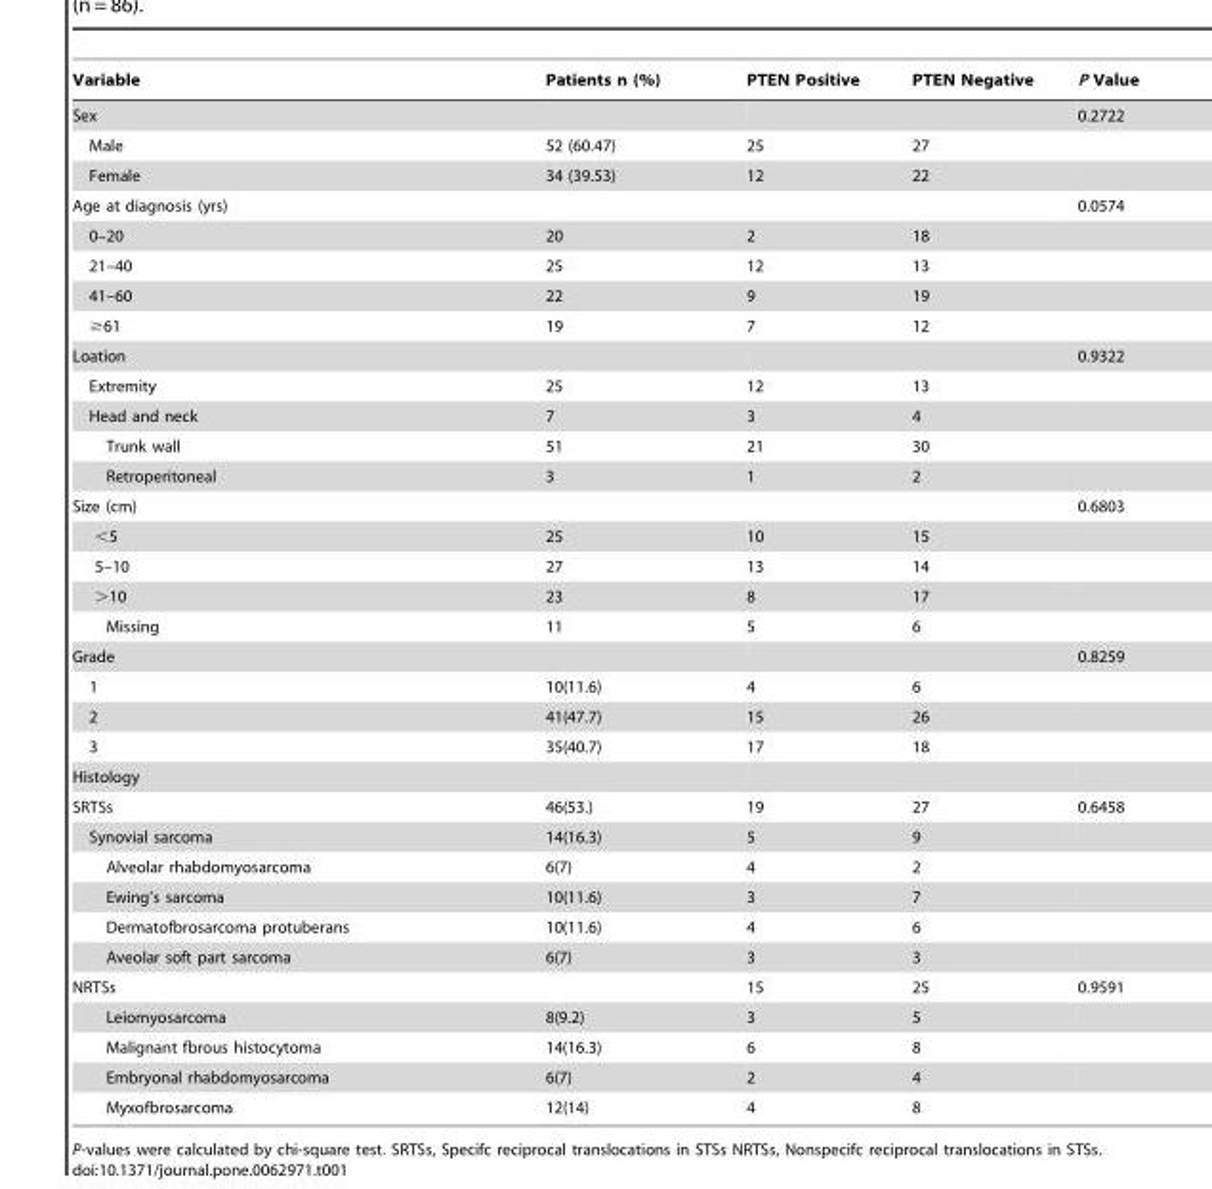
<table><thead><tr><td>Variable</td><td>Patients n (%)</td><td>PTEN Positive</td><td>PTEN Negative</td><td>P Value</td></tr></thead><tbody><tr><td>Sex</td><td></td><td></td><td></td><td>0.2722</td></tr><tr><td>Male</td><td>52 (60.47)</td><td>25</td><td>27</td><td></td></tr><tr><td>Female</td><td>34 (39.53)</td><td>12</td><td>22</td><td></td></tr><tr><td>Age at diagnosis (yrs)</td><td></td><td></td><td></td><td>0.0574</td></tr><tr><td>0–20</td><td>20</td><td>2</td><td>18</td><td></td></tr><tr><td>21–40</td><td>25</td><td>12</td><td>13</td><td></td></tr><tr><td>41–60</td><td>22</td><td>9</td><td>19</td><td></td></tr><tr><td>≥61</td><td>19</td><td>7</td><td>12</td><td></td></tr><tr><td>Loation</td><td></td><td></td><td></td><td>0.9322</td></tr><tr><td>Extremity</td><td>25</td><td>12</td><td>13</td><td></td></tr><tr><td>Head and neck</td><td>7</td><td>3</td><td>4</td><td></td></tr><tr><td>Trunk wall</td><td>51</td><td>21</td><td>30</td><td></td></tr><tr><td>Retroperitoneal</td><td>3</td><td>1</td><td>2</td><td></td></tr><tr><td>Size (cm)</td><td></td><td></td><td></td><td>0.6803</td></tr><tr><td>&lt;5</td><td>25</td><td>10</td><td>15</td><td></td></tr><tr><td>5–10</td><td>27</td><td>13</td><td>14</td><td></td></tr><tr><td>&gt;10</td><td>23</td><td>8</td><td>17</td><td></td></tr><tr><td>Missing</td><td>11</td><td>5</td><td>6</td><td></td></tr><tr><td>Grade</td><td></td><td></td><td></td><td>0.8259</td></tr><tr><td>1</td><td>10(11.6)</td><td>4</td><td>6</td><td></td></tr><tr><td>2</td><td>41(47.7)</td><td>15</td><td>26</td><td></td></tr><tr><td>3</td><td>35(40.7)</td><td>17</td><td>18</td><td></td></tr><tr><td colspan="5">Histology</td></tr><tr><td>SRTSs</td><td>46(53.)</td><td>19</td><td>27</td><td>0.6458</td></tr><tr><td>Synovial sarcoma</td><td>14(16.3)</td><td>5</td><td>9</td><td></td></tr><tr><td>Alveolar rhabdomyosarcoma</td><td>6(7)</td><td>4</td><td>2</td><td></td></tr><tr><td>Ewing’s sarcoma</td><td>10(11.6)</td><td>3</td><td>7</td><td></td></tr><tr><td>Dermatofbrosarcoma protuberans</td><td>10(11.6)</td><td>4</td><td>6</td><td></td></tr><tr><td>Aveolar soft part sarcoma</td><td>6(7)</td><td>3</td><td>3</td><td></td></tr><tr><td>NRTSs</td><td></td><td>15</td><td>25</td><td>0.9591</td></tr><tr><td>Leiomyosarcoma</td><td>8(9.2)</td><td>3</td><td>5</td><td></td></tr><tr><td>Malignant fbrous histocytoma</td><td>14(16.3)</td><td>6</td><td>8</td><td></td></tr><tr><td>Embryonal rhabdomyosarcoma</td><td>6(7)</td><td>2</td><td>4</td><td></td></tr><tr><td>Myxofbrosarcoma</td><td>12(14)</td><td>4</td><td>8</td><td></td></tr></tbody></table>